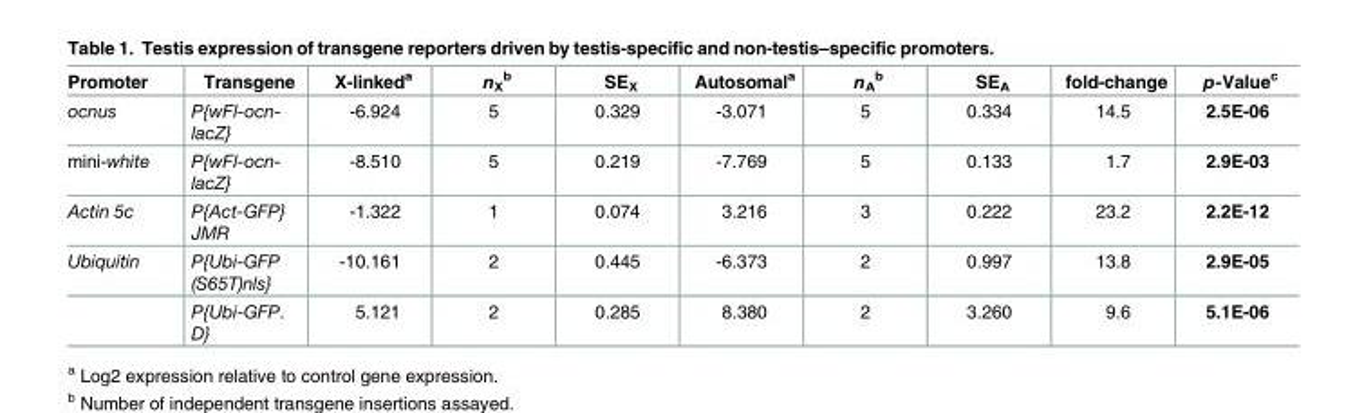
<table><thead><tr><td>Promoter</td><td>Transgene</td><td>X-linked<sup>a</sup></td><td>n<sub>X</sub> <sup>b</sup></td><td>SE<sub>X</sub></td><td>Autosomal<sup>a</sup></td><td>n<sub>A</sub> <sup>b</sup></td><td>SE<sub>A</sub></td><td>fold-change</td><td>p-Value<sup>c</sup></td></tr></thead><tbody><tr><td>ocnus</td><td>P{wFl-ocn- lacZ}</td><td>-6.924</td><td>5</td><td>0.329</td><td>-3.071</td><td>5</td><td>0.334</td><td>14.5</td><td>2.5E-06</td></tr><tr><td>mini-white</td><td>P{wFl-ocn- lacZ}</td><td>-8.510</td><td>5</td><td>0.219</td><td>-7.769</td><td>5</td><td>0.133</td><td>1.7</td><td>2.9E-03</td></tr><tr><td>Actin 5c</td><td>P{Act-GFP} JMR</td><td>-1.322</td><td>1</td><td>0.074</td><td>3.216</td><td>3</td><td>0.222</td><td>23.2</td><td>2.2E-12</td></tr><tr><td rowspan="2">Ubiquitin</td><td>P{Ubi-GFP (S65T)nls}</td><td>-10.161</td><td>2</td><td>0.445</td><td>-6.373</td><td>2</td><td>0.997</td><td>13.8</td><td>2.9E-05</td></tr><tr><td>P{Ubi-GFP. D}</td><td>5.121</td><td>2</td><td>0.285</td><td>8.380</td><td>2</td><td>3.260</td><td>9.6</td><td>5.1E-06</td></tr></tbody></table>